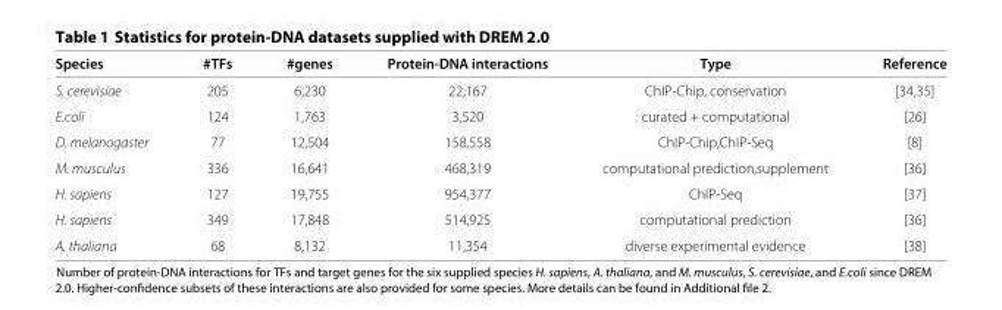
<table><thead><tr><td>Species</td><td>#TFs</td><td>#genes</td><td>Protein-DNA interactions</td><td>Type</td><td>Reference</td></tr></thead><tbody><tr><td>S. cerevisiae</td><td>205</td><td>6,230</td><td>22,167</td><td>ChIP-Chip, conservation</td><td>[34,35]</td></tr><tr><td>E.coli</td><td>124</td><td>1,763</td><td>3,520</td><td>curated + computational</td><td>[26]</td></tr><tr><td>D. melanogaster</td><td>77</td><td>12,504</td><td>158,558</td><td>ChIP-Chip,ChIP-Seq</td><td>[8]</td></tr><tr><td>M. musculus</td><td>336</td><td>16,641</td><td>468,319</td><td>computational prediction,supplement</td><td>[36]</td></tr><tr><td>H. sapiens</td><td>127</td><td>19,755</td><td>954,377</td><td>ChIP-Seq</td><td>[37]</td></tr><tr><td>H. sapiens</td><td>349</td><td>17,848</td><td>514,925</td><td>computational prediction</td><td>[36]</td></tr><tr><td>A. thaliana</td><td>68</td><td>8,132</td><td>11,354</td><td>diverse experimental evidence</td><td>[38]</td></tr></tbody></table>